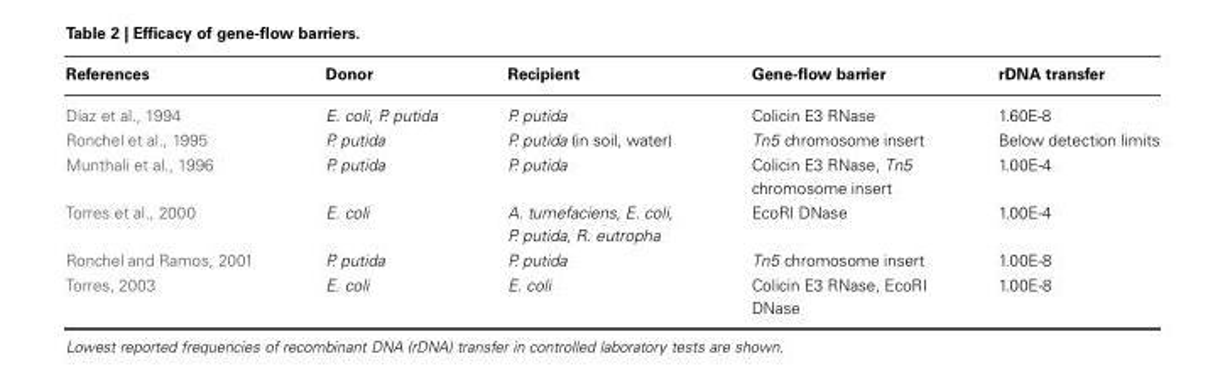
<table><thead><tr><td>References</td><td>Donor</td><td>Recipient</td><td>Gene-flow barrier</td><td>rDNA transfer</td></tr></thead><tbody><tr><td>Díaz et al., 1994</td><td>E. coli, P. putida</td><td>P. putida</td><td>Colicin E3 RNase</td><td>1.60E-8</td></tr><tr><td>Ronchel et al., 1995</td><td>P. putida</td><td>P. putida (in soil, water)</td><td>Tn5 chromosome insert</td><td>Below detection limits</td></tr><tr><td>Munthali et al., 1996</td><td>P. putida</td><td>P. putida</td><td>Colicin E3 RNase, Tn5 chromosome insert</td><td>1.00E-4</td></tr><tr><td>Torres et al., 2000</td><td>E. coli</td><td>A. tumefaciens, E. coli, P. putida, R. eutropha</td><td>EcoRI DNase</td><td>1.00E-4</td></tr><tr><td>Ronchel and Ramos, 2001</td><td>P. putida</td><td>P. putida</td><td>Tn5 chromosome insert</td><td>1.00E-8</td></tr><tr><td>Torres, 2003</td><td>E. coli</td><td>E. coli</td><td>Colicin E3 RNase, EcoRI DNase</td><td>1.00E-8</td></tr></tbody></table>